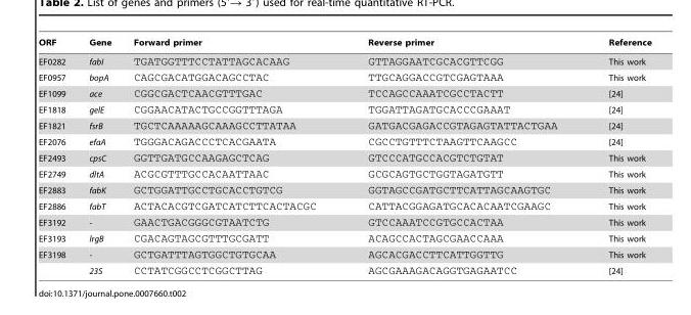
<table><thead><tr><td>ORF</td><td>Gene</td><td>Forward primer</td><td>Reverse primer</td><td>Reference</td></tr></thead><tbody><tr><td>EF0282</td><td>fabI</td><td>TGATGGTTTCCTATTAGCACAAG</td><td>GTTAGGAATCGCACGTTCGG</td><td>This work</td></tr><tr><td>EF0957</td><td>bopA</td><td>CAGCGACATGGACAGCCTAC</td><td>TTGCAGGACCGTCGAGTAAA</td><td>This work</td></tr><tr><td>EF1099</td><td>ace</td><td>CGGCGACTCAACGTTTGAC</td><td>TCCAGCCAAATCGCCTACTT</td><td>[24]</td></tr><tr><td>EF1818</td><td>gelE</td><td>CGGAACATACTGCCGGTTTAGA</td><td>TGGATTAGATGCACCCGAAAT</td><td>[24]</td></tr><tr><td>EF1821</td><td>fsrB</td><td>TGCTCAAAAAGCAAAGCCTTATAA</td><td>GATGACGAGACCGTAGAGTATTACTGAA</td><td>[24]</td></tr><tr><td>EF2076</td><td>efaA</td><td>TGGGACAGACCCTCACGAATA</td><td>CGCCTGTTTCTAAGTTCAAGCC</td><td>[24]</td></tr><tr><td>EF2493</td><td>cpsC</td><td>GGTTGATGCCAAGAGCTCAG</td><td>GTCCCATGCCACGTCTGTAT</td><td>This work</td></tr><tr><td>EF2749</td><td>dltA</td><td>ACGCGTTTGCCACAATTAAC</td><td>GCGCAGTGCTGGTAGATGTT</td><td>This work</td></tr><tr><td>EF2883</td><td>fabK</td><td>GCTGGATTGCCTGCACCTGTCG</td><td>GGTAGCCGATGCTTCATTAGCAAGTGC</td><td>This work</td></tr><tr><td>EF2886</td><td>fabT</td><td>ACTACACGTCGATCATCTTCACTACGC</td><td>CATTACGGAGATGCACACAATCGAAGC</td><td>This work</td></tr><tr><td>EF3192</td><td>-</td><td>GAACTGACGGGCGTAATCTG</td><td>GTCCAAATCCGTGCCACTAA</td><td>This work</td></tr><tr><td>EF3193</td><td>lrgB</td><td>CGACAGTAGCGTTTGCGATT</td><td>ACAGCCACTAGCGAACCAAA</td><td>This work</td></tr><tr><td rowspan="2">EF3198</td><td>-</td><td>GCTGATTTAGTGGCTGTGCAA</td><td>AGCACGACCTTCATTGGTTG</td><td>This work</td></tr><tr><td>23S</td><td>CCTATCGGCCTCGGCTTAG</td><td>AGCGAAAGACAGGTGAGAATCC</td><td>[24]</td></tr></tbody></table>